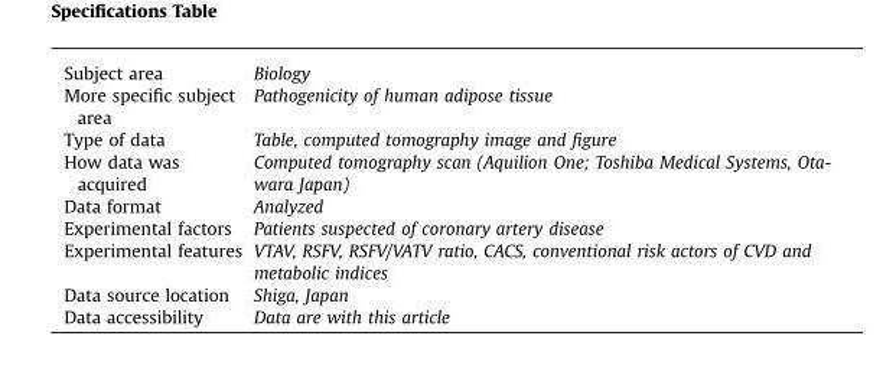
<table><tbody><tr><td>Subject area</td><td>Biology</td></tr><tr><td>More specific subject area</td><td>Pathogenicity of human adipose tissue</td></tr><tr><td>Type of data</td><td>Table, computed tomography image and figure</td></tr><tr><td>How data was acquired</td><td>Computed tomography scan (Aquilion One; Toshiba Medical Systems, Ota- wara Japan)</td></tr><tr><td>Data format</td><td>Analyzed</td></tr><tr><td>Experimental factors</td><td>Patients suspected of coronary artery disease</td></tr><tr><td>Experimental features</td><td>VTAV, RSFV, RSFV/VATV ratio, CACS, conventional risk actors of CVD and metabolic indices</td></tr><tr><td>Data source location</td><td>Shiga, Japan</td></tr><tr><td>Data accessibility</td><td>Data are with this article</td></tr></tbody></table>